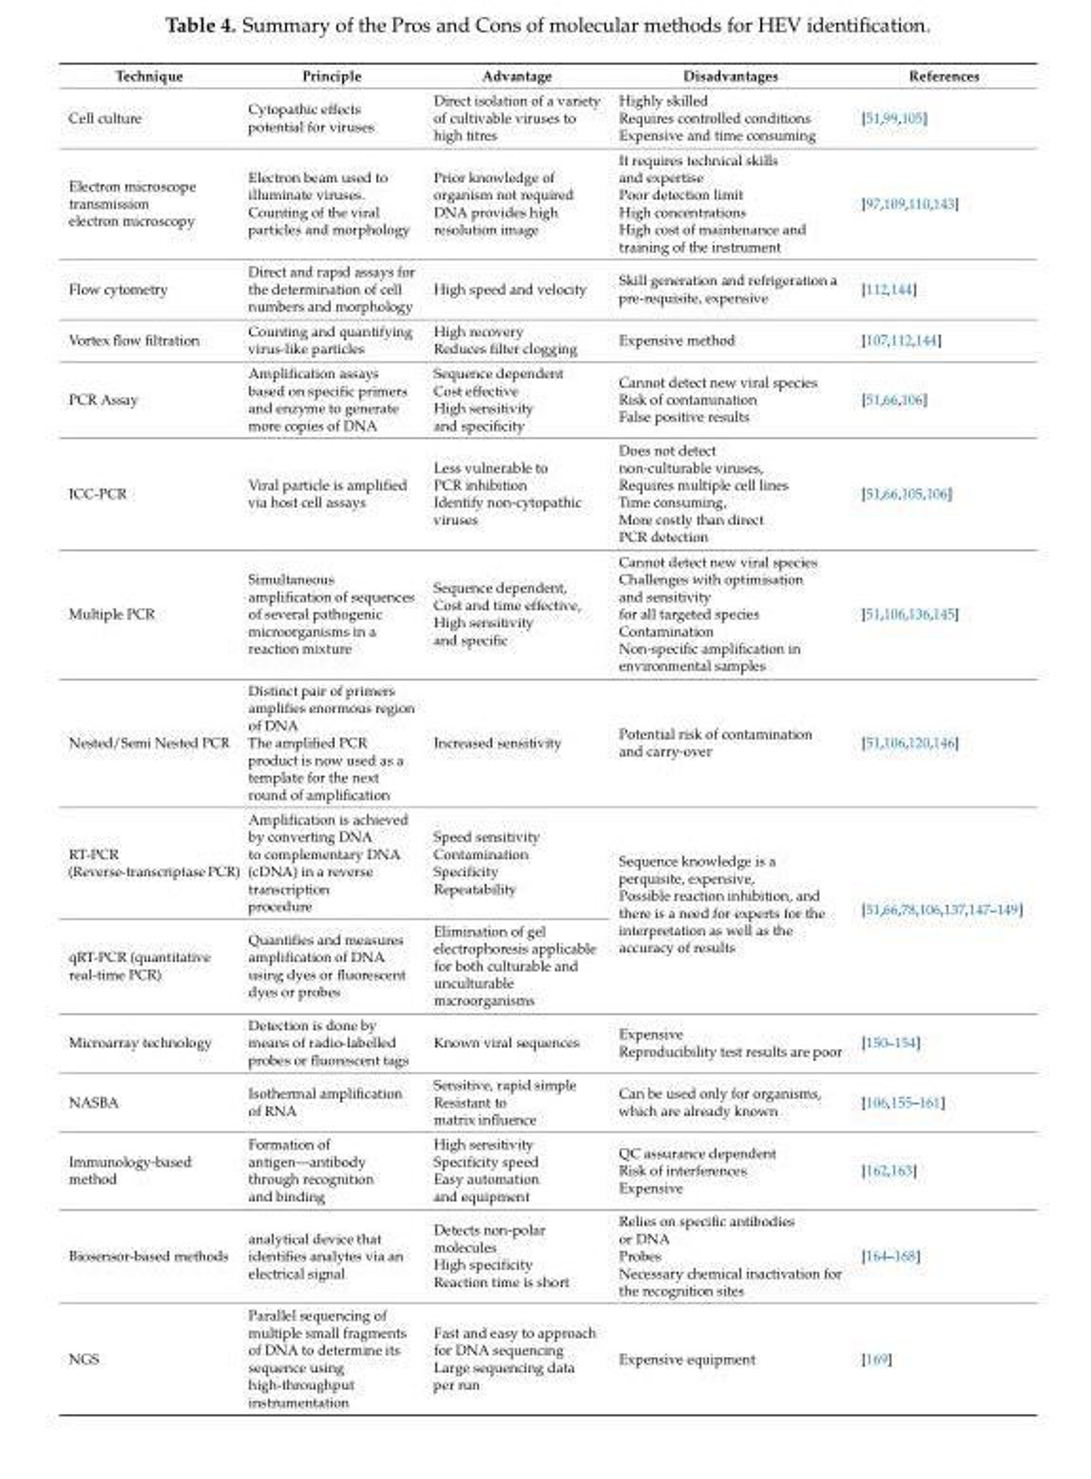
<table><thead><tr><td>Technique</td><td>Principle</td><td>Advantage</td><td>Disadvantages</td><td>References</td></tr></thead><tbody><tr><td>Cell culture</td><td>Cytopathic effects potential for viruses</td><td>Direct isolation of a variety of cultivable viruses to high titres</td><td>Highly skilled Requires controlled conditions Expensive and time consuming</td><td>[51,99,105]</td></tr><tr><td>Electron microscope transmission electron microscopy</td><td>Electron beam used to illuminate viruses. Counting of the viral particles and morphology</td><td>Prior knowledge of organism not required DNA provides high resolution image</td><td>It requires technical skills and expertise Poor detection limit High concentrations High cost of maintenance and training of the instrument</td><td>[97,109,110,143]</td></tr><tr><td>Flow cytometry</td><td>Direct and rapid assays for the determination of cell numbers and morphology</td><td>High speed and velocity</td><td>Skill generation and refrigeration a pre-requisite, expensive</td><td>[112,144]</td></tr><tr><td>Vortex flow filtration</td><td>Counting and quantifying virus-like particles</td><td>High recovery Reduces filter clogging</td><td>Expensive method</td><td>[107,112,144]</td></tr><tr><td>PCR Assay</td><td>Amplification assays based on specific primers and enzyme to generate more copies of DNA</td><td>Sequence dependent Cost effective High sensitivity and specificity</td><td>Cannot detect new viral species Risk of contamination False positive results</td><td>[51,66,106]</td></tr><tr><td>ICC-PCR</td><td>Viral particle is amplified via host cell assays</td><td>Less vulnerable to PCR inhibition Identify non-cytopathic viruses</td><td>Does not detect non-culturable viruses, Requires multiple cell lines Time consuming, More costly than direct PCR detection</td><td>[51,66,105,106]</td></tr><tr><td>Multiple PCR</td><td>Simultaneous amplification of sequences of several pathogenic microorganisms in a reaction mixture</td><td>Sequence dependent, Cost and time effective, High sensitivity and specific</td><td>Cannot detect new viral species Challenges with optimisation and sensitivity for all targeted species Contamination Non-specific amplification in environmental samples</td><td>[51,106,136,145]</td></tr><tr><td>Nested/Semi Nested PCR</td><td>Distinct pair of primers amplifies enormous region of DNA The amplified PCR product is now used as a template for the next round of amplification</td><td>Increased sensitivity</td><td>Potential risk of contamination and carry-over</td><td>[51,106,120,146]</td></tr><tr><td>RT-PCR (Reverse-transcriptase PCR)</td><td>Amplification is achieved by converting DNA to complementary DNA (cDNA) in a reverse transcription procedure</td><td>Speed sensitivity Contamination Specificity Repeatability</td><td rowspan="2">Sequence knowledge is a perquisite, expensive, Possible reaction inhibition, and there is a need for experts for the interpretation as well as the accuracy of results</td><td rowspan="2">[51,66,78,106,137,147–149]</td></tr><tr><td>qRT-PCR (quantitative real-time PCR)</td><td>Quantifies and measures amplification of DNA using dyes or fluorescent dyes or probes</td><td>Elimination of gel electrophoresis applicable for both culturable and unculturable microorganisms</td></tr><tr><td>Microarray technology</td><td>Detection is done by means of radio-labelled probes or fluorescent tags</td><td>Known viral sequences</td><td>Expensive Reproducibility test results are poor</td><td>[150–154]</td></tr><tr><td>NASBA</td><td>Isothermal amplification of RNA</td><td>Sensitive, rapid simple Resistant to matrix influence</td><td>Can be used only for organisms, which are already known</td><td>[106,155–161]</td></tr><tr><td>Immunology-based method</td><td>Formation of antigen—antibody through recognition and binding</td><td>High sensitivity Specificity speed Easy automation and equipment</td><td>QC assurance dependent Risk of interferences Expensive</td><td>[162,163]</td></tr><tr><td>Biosensor-based methods</td><td>analytical device that identifies analytes via an electrical signal</td><td>Detects non-polar molecules High specificity Reaction time is short</td><td>Relies on specific antibodies or DNA Probes Necessary chemical inactivation for the recognition sites</td><td>[164–168]</td></tr><tr><td>NGS</td><td>Parallel sequencing of multiple small fragments of DNA to determine its sequence using high-throughput instrumentation</td><td>Fast and easy to approach for DNA sequencing Large sequencing data per run</td><td>Expensive equipment</td><td>[169]</td></tr></tbody></table>